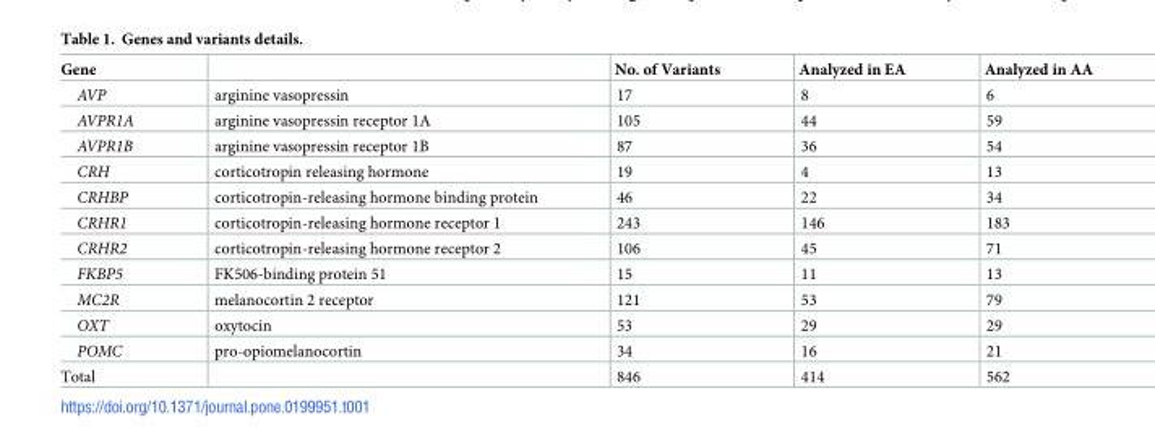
<table><thead><tr><td>Gene</td><td></td><td>No. of Variants</td><td>Analyzed in EA</td><td>Analyzed in AA</td></tr></thead><tbody><tr><td>AVP</td><td>arginine vasopressin</td><td>17</td><td>8</td><td>6</td></tr><tr><td>AVPR1A</td><td>arginine vasopressin receptor 1A</td><td>105</td><td>44</td><td>59</td></tr><tr><td>AVPR1B</td><td>arginine vasopressin receptor 1B</td><td>87</td><td>36</td><td>54</td></tr><tr><td>CRH</td><td>corticotropin releasing hormone</td><td>19</td><td>4</td><td>13</td></tr><tr><td>CRHBP</td><td>corticotropin-releasing hormone binding protein</td><td>46</td><td>22</td><td>34</td></tr><tr><td>CRHR1</td><td>corticotropin-releasing hormone receptor 1</td><td>243</td><td>146</td><td>183</td></tr><tr><td>CRHR2</td><td>corticotropin-releasing hormone receptor 2</td><td>106</td><td>45</td><td>71</td></tr><tr><td>FKBP5</td><td>FK506-binding protein 51</td><td>15</td><td>11</td><td>13</td></tr><tr><td>MC2R</td><td>melanocortin 2 receptor</td><td>121</td><td>53</td><td>79</td></tr><tr><td>OXT</td><td>oxytocin</td><td>53</td><td>29</td><td>29</td></tr><tr><td>POMC</td><td>pro-opiomelanocortin</td><td>34</td><td>16</td><td>21</td></tr><tr><td>Total</td><td></td><td>846</td><td>414</td><td>562</td></tr></tbody></table>